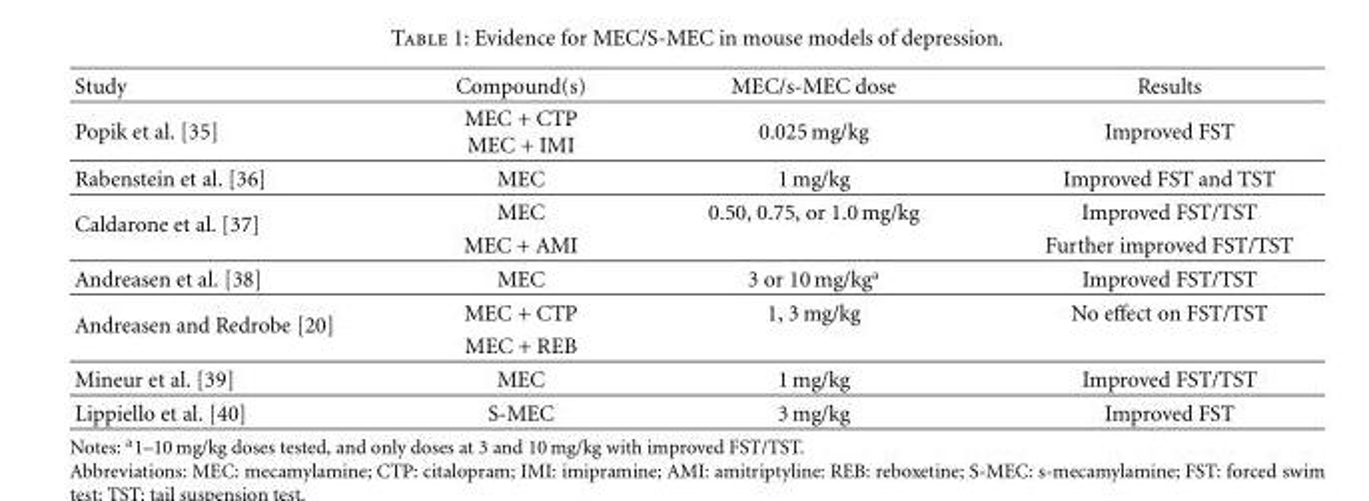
<table><thead><tr><td>Study</td><td>Compound(s)</td><td>MEC/s-MEC dose</td><td>Results</td></tr></thead><tbody><tr><td>Popik et al. [35]</td><td>MEC + CTP MEC + IMI</td><td>0.025 mg/kg</td><td>Improved FST</td></tr><tr><td>Rabenstein et al. [36]</td><td>MEC</td><td>1 mg/kg</td><td>Improved FST and TST</td></tr><tr><td rowspan="2">Caldarone et al. [37]</td><td>MEC</td><td>0.50, 0.75, or 1.0 mg/kg</td><td>Improved FST/TST</td></tr><tr><td>MEC + AMI</td><td></td><td>Further improved FST/TST</td></tr><tr><td>Andreasen et al. [38]</td><td>MEC</td><td>3 or 10 mg/kg<sup>a</sup></td><td>Improved FST/TST</td></tr><tr><td rowspan="2">Andreasen and Redrobe [20]</td><td>MEC + CTP</td><td>1, 3 mg/kg</td><td>No effect on FST/TST</td></tr><tr><td>MEC + REB</td><td></td><td></td></tr><tr><td>Mineur et al. [39]</td><td>MEC</td><td>1 mg/kg</td><td>Improved FST/TST</td></tr><tr><td>Lippiello et al. [40]</td><td>S-MEC</td><td>3 mg/kg</td><td>Improved FST</td></tr></tbody></table>